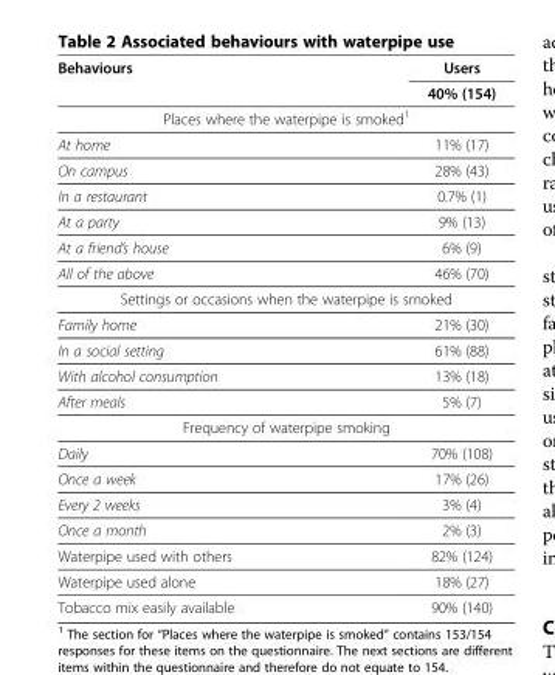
<table><thead><tr><td rowspan="2">Behaviours</td><td rowspan="2">Users 40% (154)</td></tr><tr></tr></thead><tbody><tr><td colspan="2">Places where the waterpipe is smoked<sup>1</sup></td></tr><tr><td>At home</td><td>11% (17)</td></tr><tr><td>On campus</td><td>28% (43)</td></tr><tr><td>In a restaurant</td><td>0.7% (1)</td></tr><tr><td>At a party</td><td>9% (13)</td></tr><tr><td>At a friend’s house</td><td>6% (9)</td></tr><tr><td>All of the above</td><td>46% (70)</td></tr><tr><td colspan="2">Settings or occasions when the waterpipe is smoked</td></tr><tr><td>Family home</td><td>21% (30)</td></tr><tr><td>In a social setting</td><td>61% (88)</td></tr><tr><td>With alcohol consumption</td><td>13% (18)</td></tr><tr><td>After meals</td><td>5% (7)</td></tr><tr><td colspan="2">Frequency of waterpipe smoking</td></tr><tr><td>Daily</td><td>70% (108)</td></tr><tr><td>Once a week</td><td>17% (26)</td></tr><tr><td>Every 2 weeks</td><td>3% (4)</td></tr><tr><td>Once a month</td><td>2% (3)</td></tr><tr><td>Waterpipe used with others</td><td>82% (124)</td></tr><tr><td>Waterpipe used alone</td><td>18% (27)</td></tr><tr><td>Tobacco mix easily available</td><td>90% (140)</td></tr></tbody></table>